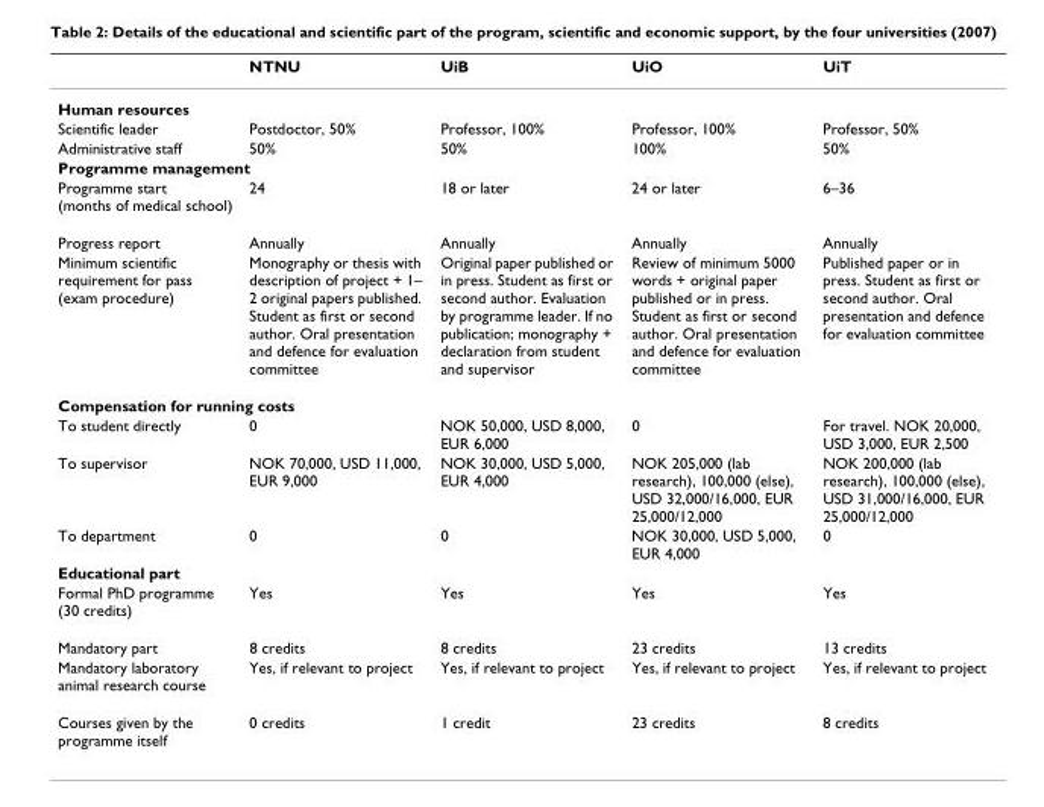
<table><thead><tr><td></td><td>NTNU</td><td>UiB</td><td>UiO</td><td>UiT</td></tr></thead><tbody><tr><td colspan="5">Human resources</td></tr><tr><td>Scientific leader</td><td>Postdoctor, 50%</td><td>Professor, 100%</td><td>Professor, 100%</td><td>Professor, 50%</td></tr><tr><td>Administrative staff</td><td>50%</td><td>50%</td><td>100%</td><td>50%</td></tr><tr><td colspan="5">Programme management</td></tr><tr><td>Programme start (months of medical school)</td><td>24</td><td>18 or later</td><td>24 or later</td><td>6–36</td></tr><tr><td>Progress report</td><td>Annually</td><td>Annually</td><td>Annually</td><td>Annually</td></tr><tr><td>Minimum scientific requirement for pass (exam procedure)</td><td>Monography or thesis with description of project + 1– 2 original papers published. Student as first or second author. Oral presentation and defence for evaluation committee</td><td>Original paper published or in press. Student as first or second author. Evaluation by programme leader. If no publication; monography + declaration from student and supervisor</td><td>Review of minimum 5000 words + original paper published or in press. Student as first or second author. Oral presentation and defence for evaluation committee</td><td>Published paper or in press. Student as first or second author. Oral presentation and defence for evaluation committee</td></tr><tr><td colspan="5">Compensation for running costs</td></tr><tr><td>To student directly</td><td>0</td><td>NOK 50,000, USD 8,000, EUR 6,000</td><td>0</td><td>For travel. NOK 20,000, USD 3,000, EUR 2,500</td></tr><tr><td>To supervisor</td><td>NOK 70,000, USD 11,000, EUR 9,000</td><td>NOK 30,000, USD 5,000, EUR 4,000</td><td>NOK 205,000 (lab research), 100,000 (else), USD 32,000/16,000, EUR 25,000/12,000</td><td>NOK 200,000 (lab research), 100,000 (else), USD 31,000/16,000, EUR 25,000/12,000</td></tr><tr><td>To department</td><td>0</td><td>0</td><td>NOK 30,000, USD 5,000, EUR 4,000</td><td>0</td></tr><tr><td colspan="5">Educational part</td></tr><tr><td>Formal PhD programme (30 credits)</td><td>Yes</td><td>Yes</td><td>Yes</td><td>Yes</td></tr><tr><td>Mandatory part</td><td>8 credits</td><td>8 credits</td><td>23 credits</td><td>13 credits</td></tr><tr><td>Mandatory laboratory animal research course</td><td>Yes, if relevant to project</td><td>Yes, if relevant to project</td><td>Yes, if relevant to project</td><td>Yes, if relevant to project</td></tr><tr><td>Courses given by the programme itself</td><td>0 credits</td><td>1 credit</td><td>23 credits</td><td>8 credits</td></tr></tbody></table>